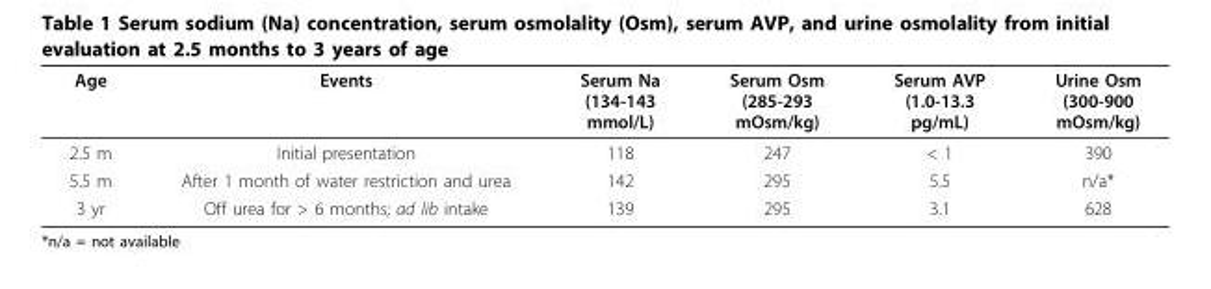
<table><thead><tr><td>Age</td><td>Events</td><td>Serum Na (134-143 mmol/L)</td><td>Serum Osm (285-293 mOsm/kg)</td><td>Serum AVP (1.0-13.3 pg/mL)</td><td>Urine Osm (300-900 mOsm/kg)</td></tr></thead><tbody><tr><td>2.5 m</td><td>Initial presentation</td><td>118</td><td>247</td><td>&lt; 1</td><td>390</td></tr><tr><td>5.5 m</td><td>After 1 month of water restriction and urea</td><td>142</td><td>295</td><td>5.5</td><td>n/a*</td></tr><tr><td>3 yr</td><td>Off urea for &gt; 6 months; ad lib intake</td><td>139</td><td>295</td><td>3.1</td><td>628</td></tr></tbody></table>